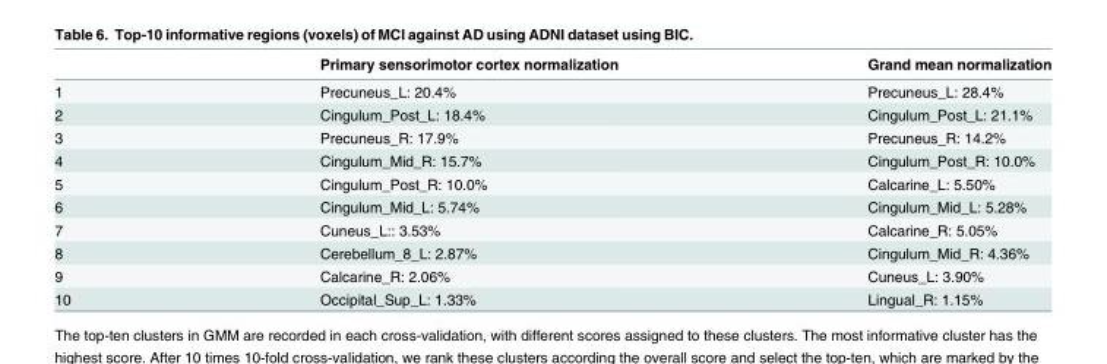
<table><thead><tr><td></td><td>Primary sensorimotor cortex normalization</td><td>Grand mean normalization</td></tr></thead><tbody><tr><td>1</td><td>Precuneus_L: 20.4%</td><td>Precuneus_L: 28.4%</td></tr><tr><td>2</td><td>Cingulum_Post_L: 18.4%</td><td>Cingulum_Post_L: 21.1%</td></tr><tr><td>3</td><td>Precuneus_R: 17.9%</td><td>Precuneus_R: 14.2%</td></tr><tr><td>4</td><td>Cingulum_Mid_R: 15.7%</td><td>Cingulum_Post_R: 10.0%</td></tr><tr><td>5</td><td>Cingulum_Post_R: 10.0%</td><td>Calcarine_L: 5.50%</td></tr><tr><td>6</td><td>Cingulum_Mid_L: 5.74%</td><td>Cingulum_Mid_L: 5.28%</td></tr><tr><td>7</td><td>Cuneus_L:: 3.53%</td><td>Calcarine_R: 5.05%</td></tr><tr><td>8</td><td>Cerebellum_8_L: 2.87%</td><td>Cingulum_Mid_R: 4.36%</td></tr><tr><td>9</td><td>Calcarine_R: 2.06%</td><td>Cuneus_L: 3.90%</td></tr><tr><td>10</td><td>Occipital_Sup_L: 1.33%</td><td>Lingual_R: 1.15%</td></tr></tbody></table>